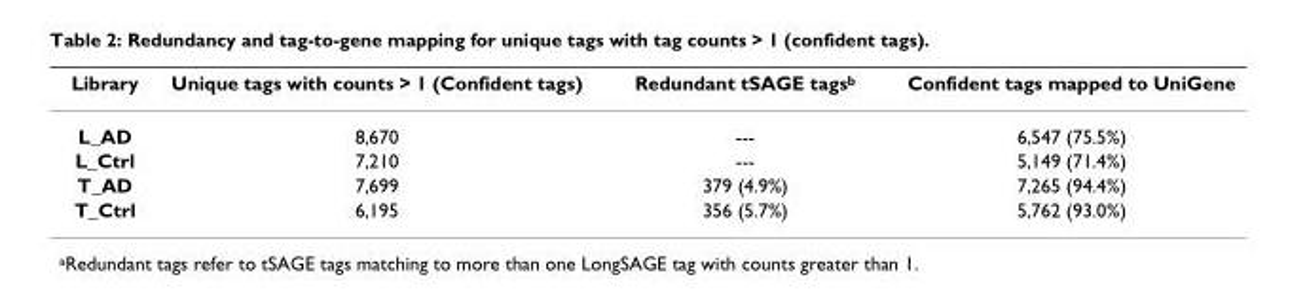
<table><thead><tr><td>Library</td><td>Unique tags with counts &gt; 1 (Confident tags)</td><td>Redundant tSAGE tags<sup>b</sup></td><td>Confident tags mapped to UniGene</td></tr></thead><tbody><tr><td>L_AD</td><td>8,670</td><td>---</td><td>6,547 (75.5%)</td></tr><tr><td>L_Ctrl</td><td>7,210</td><td>---</td><td>5,149 (71.4%)</td></tr><tr><td>T_AD</td><td>7,699</td><td>379 (4.9%)</td><td>7,265 (94.4%)</td></tr><tr><td>T_Ctrl</td><td>6,195</td><td>356 (5.7%)</td><td>5,762 (93.0%)</td></tr></tbody></table>